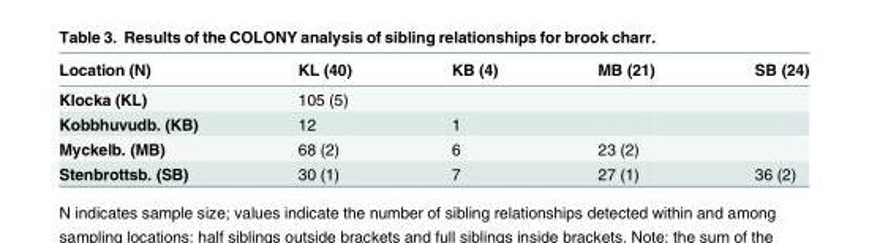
<table><thead><tr><td>Location (N)</td><td>KL (40)</td><td>KB (4)</td><td>MB (21)</td><td>SB (24)</td></tr></thead><tbody><tr><td>Klocka (KL)</td><td>105 (5)</td><td></td><td></td><td></td></tr><tr><td>Kobbhuvudb. (KB)</td><td>12</td><td>1</td><td></td><td></td></tr><tr><td>Myckelb. (MB)</td><td>68 (2)</td><td>6</td><td>23 (2)</td><td></td></tr><tr><td>Stenbrottsb. (SB)</td><td>30 (1)</td><td>7</td><td>27 (1)</td><td>36 (2)</td></tr></tbody></table>